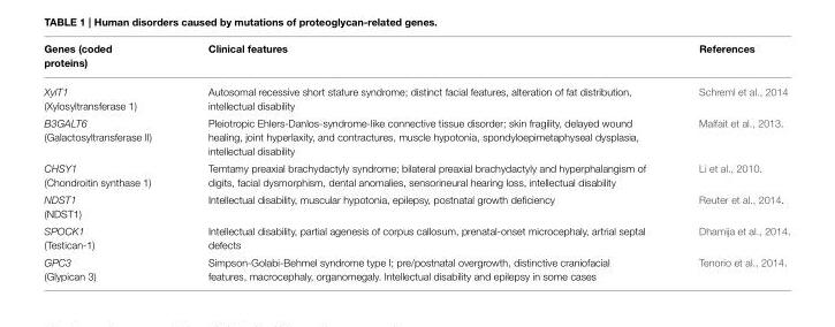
<table><thead><tr><td>Genes (coded proteins)</td><td>Clinical features</td><td>References</td></tr></thead><tbody><tr><td>XylT1 (Xylosyltransferase 1)</td><td>Autosomal recessive short stature syndrome; distinct facial features, alteration of fat distribution, intellectual disability</td><td>Schreml et al., 2014</td></tr><tr><td>B3GALT6 (Galactosyltransferase II)</td><td>Pleiotropic Ehlers-Danlos-syndrome-like connective tissue disorder; skin fragility, delayed wound healing, joint hyperlaxity, and contractures, muscle hypotonia, spondyloepimetaphyseal dysplasia, intellectual disability</td><td>Malfait et al., 2013.</td></tr><tr><td>CHSY1 (Chondroitin synthase 1)</td><td>Temtamy preaxial brachydactyly syndrome; bilateral preaxial brachydactyly and hyperphalangism of digits, facial dysmorphism, dental anomalies, sensorineural hearing loss, intellectual disability</td><td>Li et al., 2010.</td></tr><tr><td>NDST1 (NDST1)</td><td>Intellectual disability, muscular hypotonia, epilepsy, postnatal growth deficiency</td><td>Reuter et al., 2014.</td></tr><tr><td>SPOCK1 (Testican-1)</td><td>Intellectual disability, partial agenesis of corpus callosum, prenatal-onset microcephaly, artrial septal defects</td><td>Dhamija et al., 2014.</td></tr><tr><td>GPC3 (Glypican 3)</td><td>Simpson-Golabi-Behmel syndrome type I; pre/postnatal overgrowth, distinctive craniofacial features, macrocephaly, organomegaly. Intellectual disability and epilepsy in some cases</td><td>Tenorio et al., 2014.</td></tr></tbody></table>